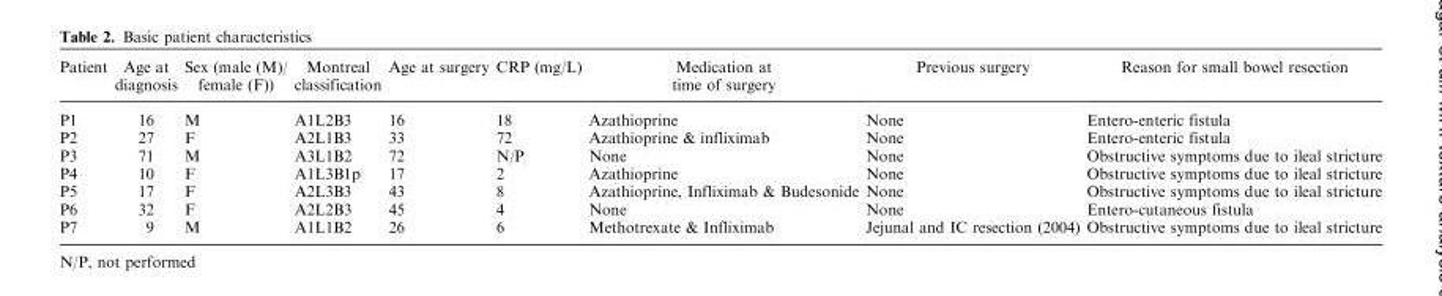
<table><thead><tr><td>Patient</td><td>Age at diagnosis</td><td>Sex (male (M)/ female (F))</td><td>Montreal classification</td><td>Age at surgery</td><td>CRP (mg/L)</td><td>Medication at time of surgery</td><td>Previous surgery</td><td>Reason for small bowel resection</td></tr></thead><tbody><tr><td>P1</td><td>16</td><td>M</td><td>A1L2B3</td><td>16</td><td>18</td><td>Azathioprine</td><td>None</td><td>Entero-enteric fistula</td></tr><tr><td>P2</td><td>27</td><td>F</td><td>A2L1B3</td><td>33</td><td>72</td><td>Azathioprine &amp; infliximab</td><td>None</td><td>Entero-enteric fistula</td></tr><tr><td>P3</td><td>71</td><td>M</td><td>A3L1B2</td><td>72</td><td>N/P</td><td>None</td><td>None</td><td>Obstructive symptoms due to ileal stricture</td></tr><tr><td>P4</td><td>10</td><td>F</td><td>A1L3B1p</td><td>17</td><td>2</td><td>Azathioprine</td><td>None</td><td>Obstructive symptoms due to ileal stricture</td></tr><tr><td>P5</td><td>17</td><td>F</td><td>A2L3B3</td><td>43</td><td>8</td><td>Azathioprine, Infliximab &amp; Budesonide</td><td>None</td><td>Obstructive symptoms due to ileal stricture</td></tr><tr><td>P6</td><td>32</td><td>F</td><td>A2L2B3</td><td>45</td><td>4</td><td>None</td><td>None</td><td>Entero-cutaneous fistula</td></tr><tr><td>P7</td><td>9</td><td>M</td><td>A1L1B2</td><td>26</td><td>6</td><td>Methotrexate &amp; Infliximab</td><td>Jejunal and IC resection (2004)</td><td>Obstructive symptoms due to ileal stricture</td></tr></tbody></table>